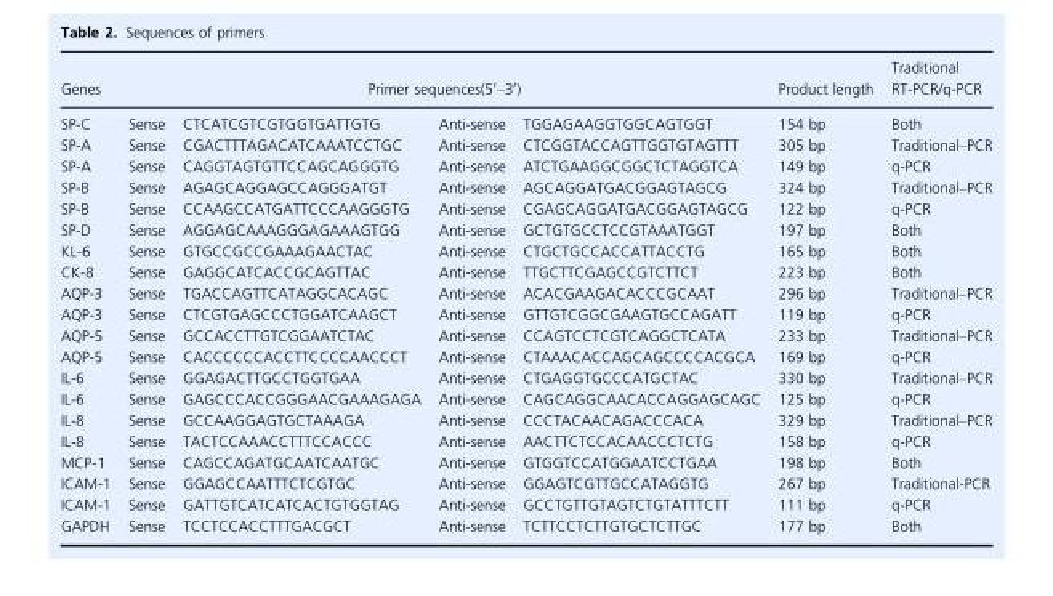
<table><thead><tr><td rowspan="2">Genes SP-C</td><td colspan="4">Primer sequences(5′–3′)</td><td rowspan="2">Product length 154 bp</td><td rowspan="2">Traditional RT-PCR/q-PCR Both</td></tr><tr><td>Sense</td><td>CTCATCGTCGTGGTGATTGTG</td><td>Anti-sense</td><td>TGGAGAAGGTGGCAGTGGT</td></tr></thead><tbody><tr><td>SP-A</td><td>Sense</td><td>CGACTTTAGACATCAAATCCTGC</td><td>Anti-sense</td><td>CTCGGTACCAGTTGGTGTAGTTT</td><td>305 bp</td><td>Traditional–PCR</td></tr><tr><td>SP-A</td><td>Sense</td><td>CAGGTAGTGTTCCAGCAGGGTG</td><td>Anti-sense</td><td>ATCTGAAGGCGGCTCTAGGTCA</td><td>149 bp</td><td>q-PCR</td></tr><tr><td>SP-B</td><td>Sense</td><td>AGAGCAGGAGCCAGGGATGT</td><td>Anti-sense</td><td>AGCAGGATGACGGAGTAGCG</td><td>324 bp</td><td>Traditional–PCR</td></tr><tr><td>SP-B</td><td>Sense</td><td>CCAAGCCATGATTCCCAAGGGTG</td><td>Anti-sense</td><td>CGAGCAGGATGACGGAGTAGCG</td><td>122 bp</td><td>q-PCR</td></tr><tr><td>SP-D</td><td>Sense</td><td>AGGAGCAAAGGGAGAAAGTGG</td><td>Anti-sense</td><td>GCTGTGCCTCCGTAAATGGT</td><td>197 bp</td><td>Both</td></tr><tr><td>KL-6</td><td>Sense</td><td>GTGCCGCCGAAAGAACTAC</td><td>Anti-sense</td><td>CTGCTGCCACCATTACCTG</td><td>165 bp</td><td>Both</td></tr><tr><td>CK-8</td><td>Sense</td><td>GAGGCATCACCGCAGTTAC</td><td>Anti-sense</td><td>TTGCTTCGAGCCGTCTTCT</td><td>223 bp</td><td>Both</td></tr><tr><td>AQP-3</td><td>Sense</td><td>TGACCAGTTCATAGGCACAGC</td><td>Anti-sense</td><td>ACACGAAGACACCCGCAAT</td><td>296 bp</td><td>Traditional–PCR</td></tr><tr><td>AQP-3</td><td>Sense</td><td>CTCGTGAGCCCTGGATCAAGCT</td><td>Anti-sense</td><td>GTTGTCGGCGAAGTGCCAGATT</td><td>119 bp</td><td>q-PCR</td></tr><tr><td>AQP-5</td><td>Sense</td><td>GCCACCTTGTCGGAATCTAC</td><td>Anti-sense</td><td>CCAGTCCTCGTCAGGCTCATA</td><td>233 bp</td><td>Traditional–PCR</td></tr><tr><td>AQP-5</td><td>Sense</td><td>CACCCCCCACCTTCCCCAACCCT</td><td>Anti-sense</td><td>CTAAACACCAGCAGCCCCACGCA</td><td>169 bp</td><td>q-PCR</td></tr><tr><td>IL-6</td><td>Sense</td><td>GGAGACTTGCCTGGTGAA</td><td>Anti-sense</td><td>CTGAGGTGCCCATGCTAC</td><td>330 bp</td><td>Traditional–PCR</td></tr><tr><td>IL-6</td><td>Sense</td><td>GAGCCCACCGGGAACGAAAGAGA</td><td>Anti-sense</td><td>CAGCAGGCAACACCAGGAGCAGC</td><td>125 bp</td><td>q-PCR</td></tr><tr><td>IL-8</td><td>Sense</td><td>GCCAAGGAGTGCTAAAGA</td><td>Anti-sense</td><td>CCCTACAACAGACCCACA</td><td>329 bp</td><td>Traditional–PCR</td></tr><tr><td>IL-8</td><td>Sense</td><td>TACTCCAAACCTTTCCACCC</td><td>Anti-sense</td><td>AACTTCTCCACAACCCTCTG</td><td>158 bp</td><td>q-PCR</td></tr><tr><td>MCP-1</td><td>Sense</td><td>CAGCCAGATGCAATCAATGC</td><td>Anti-sense</td><td>GTGGTCCATGGAATCCTGAA</td><td>198 bp</td><td>Both</td></tr><tr><td>ICAM-1</td><td>Sense</td><td>GGAGCCAATTTCTCGTGC</td><td>Anti-sense</td><td>GGAGTCGTTGCCATAGGTG</td><td>267 bp</td><td>Traditional-PCR</td></tr><tr><td>ICAM-1</td><td>Sense</td><td>GATTGTCATCATCACTGTGGTAG</td><td>Anti-sense</td><td>GCCTGTTGTAGTCTGTATTTCTT</td><td>111 bp</td><td>q-PCR</td></tr><tr><td>GAPDH</td><td>Sense</td><td>TCCTCCACCTTTGACGCT</td><td>Anti-sense</td><td>TCTTCCTCTTGTGCTCTTGC</td><td>177 bp</td><td>Both</td></tr></tbody></table>